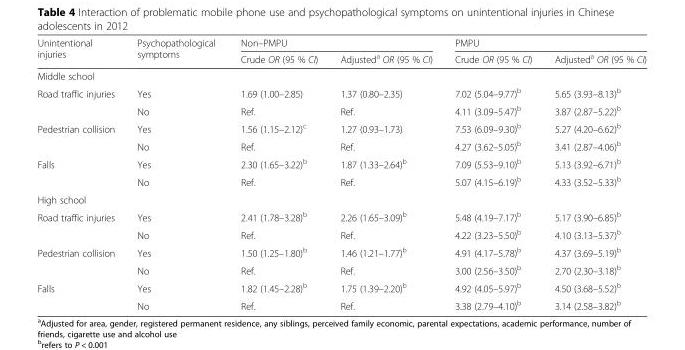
<table><thead><tr><td rowspan="2">Unintentional injuries</td><td rowspan="2">Psychopathological symptoms</td><td colspan="2">Non–PMPU</td><td colspan="2">PMPU</td></tr><tr><td>Crude OR (95 % CI)</td><td>Adjusted<sup>a</sup> OR (95 % CI)</td><td>Crude OR (95 % CI)</td><td>Adjusted<sup>a</sup> OR (95 % CI)</td></tr></thead><tbody><tr><td colspan="6">Middle school</td></tr><tr><td rowspan="2">Road traffic injuries</td><td>Yes</td><td>1.69 (1.00–2.85)</td><td>1.37 (0.80–2.35)</td><td>7.02 (5.04–9.77)<sup>b</sup></td><td>5.65 (3.93–8.13)<sup>b</sup></td></tr><tr><td>No</td><td>Ref.</td><td>Ref.</td><td>4.11 (3.09–5.47)<sup>b</sup></td><td>3.87 (2.87–5.22)<sup>b</sup></td></tr><tr><td rowspan="2">Pedestrian collision</td><td>Yes</td><td>1.56 (1.15–2.12)<sup>c</sup></td><td>1.27 (0.93–1.73)</td><td>7.53 (6.09–9.30)<sup>b</sup></td><td>5.27 (4.20–6.62)<sup>b</sup></td></tr><tr><td>No</td><td>Ref.</td><td>Ref.</td><td>4.27 (3.62–5.05)<sup>b</sup></td><td>3.41 (2.87–4.06)<sup>b</sup></td></tr><tr><td rowspan="2">Falls</td><td>Yes</td><td>2.30 (1.65–3.22)<sup>b</sup></td><td>1.87 (1.33–2.64)<sup>b</sup></td><td>7.09 (5.53–9.10)<sup>b</sup></td><td>5.13 (3.92–6.71)<sup>b</sup></td></tr><tr><td>No</td><td>Ref.</td><td>Ref.</td><td>5.07 (4.15–6.19)<sup>b</sup></td><td>4.33 (3.52–5.33)<sup>b</sup></td></tr><tr><td colspan="6">High school</td></tr><tr><td rowspan="2">Road traffic injuries</td><td>Yes</td><td>2.41 (1.78–3.28)<sup>b</sup></td><td>2.26 (1.65–3.09)<sup>b</sup></td><td>5.48 (4.19–7.17)<sup>b</sup></td><td>5.17 (3.90–6.85)<sup>b</sup></td></tr><tr><td>No</td><td>Ref.</td><td>Ref.</td><td>4.22 (3.23–5.50)<sup>b</sup></td><td>4.10 (3.13–5.37)<sup>b</sup></td></tr><tr><td rowspan="2">Pedestrian collision</td><td>Yes</td><td>1.50 (1.25–1.80)<sup>b</sup></td><td>1.46 (1.21–1.77)<sup>b</sup></td><td>4.91 (4.17–5.78)<sup>b</sup></td><td>4.37 (3.69–5.19)<sup>b</sup></td></tr><tr><td>No</td><td>Ref.</td><td>Ref.</td><td>3.00 (2.56–3.50)<sup>b</sup></td><td>2.70 (2.30–3.18)<sup>b</sup></td></tr><tr><td rowspan="2">Falls</td><td>Yes</td><td>1.82 (1.45–2.28)<sup>b</sup></td><td>1.75 (1.39–2.20)<sup>b</sup></td><td>4.92 (4.05–5.97)<sup>b</sup></td><td>4.50 (3.68–5.52)<sup>b</sup></td></tr><tr><td>No</td><td>Ref.</td><td>Ref.</td><td>3.38 (2.79–4.10)<sup>b</sup></td><td>3.14 (2.58–3.82)<sup>b</sup></td></tr></tbody></table>